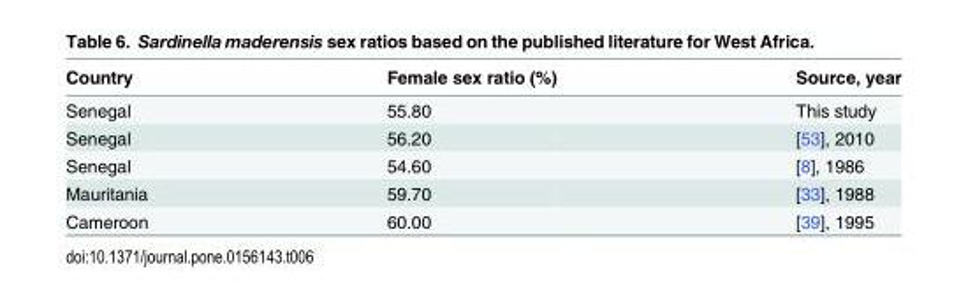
<table><thead><tr><td>Country</td><td>Female sex ratio (%)</td><td>Source, year</td></tr></thead><tbody><tr><td>Senegal</td><td>55.80</td><td>This study</td></tr><tr><td>Senegal</td><td>56.20</td><td>[53], 2010</td></tr><tr><td>Senegal</td><td>54.60</td><td>[8], 1986</td></tr><tr><td>Mauritania</td><td>59.70</td><td>[33], 1988</td></tr><tr><td>Cameroon</td><td>60.00</td><td>[39], 1995</td></tr></tbody></table>